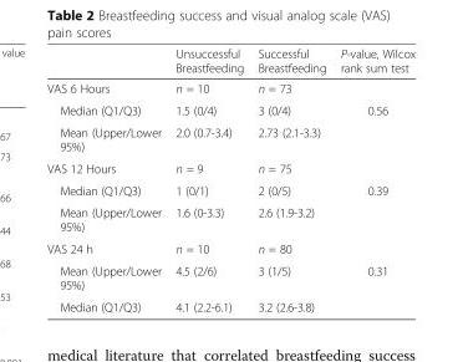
<table><thead><tr><td></td><td>Unsuccessful Breastfeeding</td><td>Successful Breastfeeding</td><td>P-value, Wilcox rank sum test</td></tr></thead><tbody><tr><td>VAS 6 Hours</td><td>n = 10</td><td>n = 73</td><td></td></tr><tr><td>Median (Q1/Q3)</td><td>1.5 (0/4)</td><td>3 (0/4)</td><td>0.56</td></tr><tr><td>Mean (Upper/Lower 95%)</td><td>2.0 (0.7-3.4)</td><td>2.73 (2.1-3.3)</td><td></td></tr><tr><td>VAS 12 Hours</td><td>n = 9</td><td>n = 75</td><td></td></tr><tr><td>Median (Q1/Q3)</td><td>1 (0/1)</td><td>2 (0/5)</td><td>0.39</td></tr><tr><td>Mean (Upper/Lower 95%)</td><td>1.6 (0-3.3)</td><td>2.6 (1.9-3.2)</td><td></td></tr><tr><td>VAS 24 h</td><td>n = 10</td><td>n = 80</td><td></td></tr><tr><td>Mean (Upper/Lower 95%)</td><td>4.5 (2/6)</td><td>3 (1/5)</td><td>0.31</td></tr><tr><td>Median (Q1/Q3)</td><td>4.1 (2.2-6.1)</td><td>3.2 (2.6-3.8)</td><td></td></tr></tbody></table>